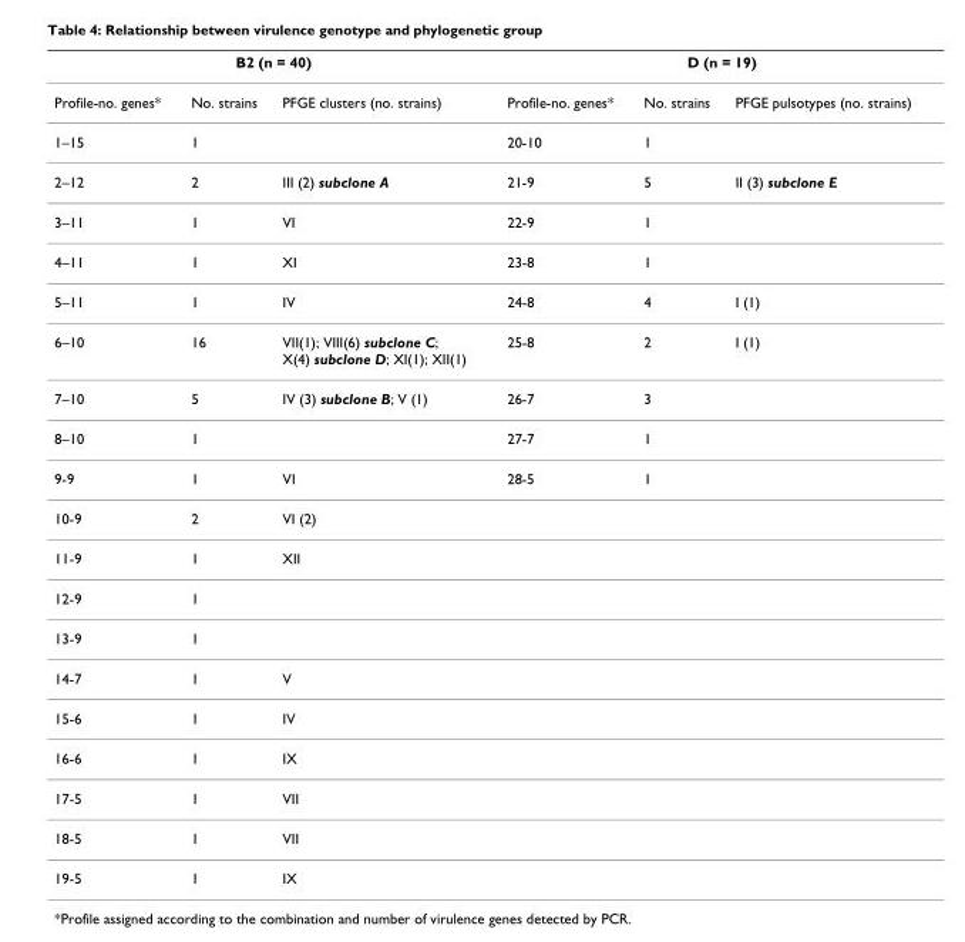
<table><thead><tr><td colspan="3">B2 (n = 40)</td><td colspan="3">D (n = 19)</td></tr><tr><td>Profile-no. genes*</td><td>No. strains</td><td>PFGE clusters (no. strains)</td><td>Profile-no. genes*</td><td>No. strains</td><td>PFGE pulsotypes (no. strains)</td></tr></thead><tbody><tr><td>1–15</td><td>1</td><td></td><td>20-10</td><td>1</td><td></td></tr><tr><td>2–12</td><td>2</td><td>III (2) subclone A</td><td>21-9</td><td>5</td><td>II (3) subclone E</td></tr><tr><td>3–11</td><td>1</td><td>VI</td><td>22-9</td><td>1</td><td></td></tr><tr><td>4–11</td><td>1</td><td>XI</td><td>23-8</td><td>1</td><td></td></tr><tr><td>5–11</td><td>1</td><td>IV</td><td>24-8</td><td>4</td><td>I (1)</td></tr><tr><td>6–10</td><td>16</td><td>VII(1); VIII(6) subclone C; X(4) subclone D; XI(1); XII(1)</td><td>25-8</td><td>2</td><td>I (1)</td></tr><tr><td>7–10</td><td>5</td><td>IV (3) subclone B; V (1)</td><td>26-7</td><td>3</td><td></td></tr><tr><td>8–10</td><td>1</td><td></td><td>27-7</td><td>1</td><td></td></tr><tr><td>9-9</td><td>1</td><td>VI</td><td>28-5</td><td>1</td><td></td></tr><tr><td>10-9</td><td>2</td><td>VI (2)</td><td></td><td></td><td></td></tr><tr><td>11-9</td><td>1</td><td>XII</td><td></td><td></td><td></td></tr><tr><td>12-9</td><td>1</td><td></td><td></td><td></td><td></td></tr><tr><td>13-9</td><td>1</td><td></td><td></td><td></td><td></td></tr><tr><td>14-7</td><td>1</td><td>V</td><td></td><td></td><td></td></tr><tr><td>15-6</td><td>1</td><td>IV</td><td></td><td></td><td></td></tr><tr><td>16-6</td><td>1</td><td>IX</td><td></td><td></td><td></td></tr><tr><td>17-5</td><td>1</td><td>VII</td><td></td><td></td><td></td></tr><tr><td>18-5</td><td>1</td><td>VII</td><td></td><td></td><td></td></tr><tr><td>19-5</td><td>1</td><td>IX</td><td></td><td></td><td></td></tr></tbody></table>